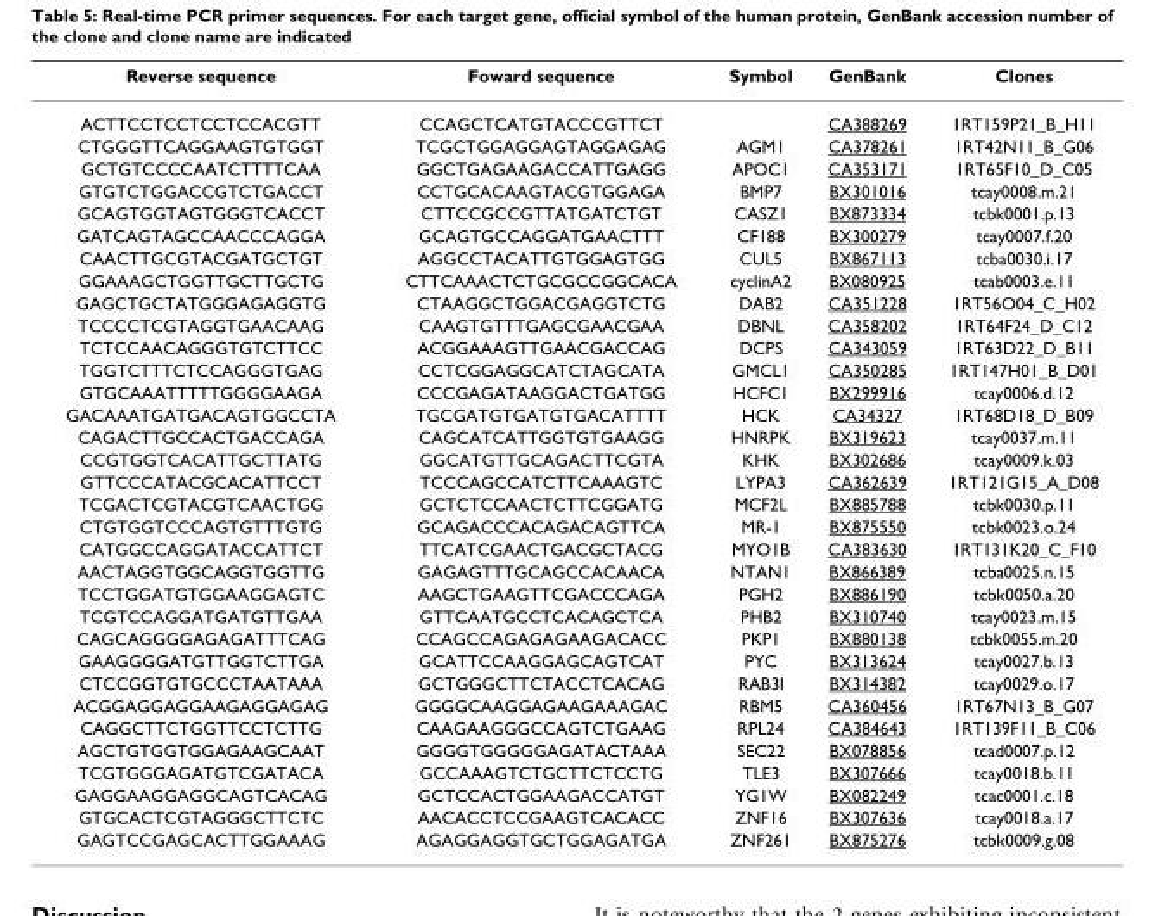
<table><thead><tr><td>Reverse sequence</td><td>Foward sequence</td><td>Symbol</td><td>GenBank</td><td>Clones</td></tr></thead><tbody><tr><td>ACTTCCTCCTCCTCCACGTT</td><td>CCAGCTCATGTACCCGTTCT</td><td></td><td>CA388269</td><td>1RT159P21_B_H11</td></tr><tr><td>CTGGGTTCAGGAAGTGTGGT</td><td>TCGCTGGAGGAGTAGGAGAG</td><td>AGM1</td><td>CA378261</td><td>1RT42N11_B_G06</td></tr><tr><td>GCTGTCCCCAATCTTTTCAA</td><td>GGCTGAGAAGACCATTGAGG</td><td>APOC1</td><td>CA353171</td><td>1RT65F10_D_C05</td></tr><tr><td>GTGTCTGGACCGTCTGACCT</td><td>CCTGCACAAGTACGTGGAGA</td><td>BMP7</td><td>BX301016</td><td>tcay0008.m.21</td></tr><tr><td>GCAGTGGTAGTGGGTCACCT</td><td>CTTCCGCCGTTATGATCTGT</td><td>CASZ1</td><td>BX873334</td><td>tcbk0001.p.13</td></tr><tr><td>GATCAGTAGCCAACCCAGGA</td><td>GCAGTGCCAGGATGAACTTT</td><td>CF188</td><td>BX300279</td><td>tcay0007.f.20</td></tr><tr><td>CAACTTGCGTACGATGCTGT</td><td>AGGCCTACATTGTGGAGTGG</td><td>CUL5</td><td>BX867113</td><td>tcba0030.i.17</td></tr><tr><td>GGAAAGCTGGTTGCTTGCTG</td><td>CTTCAAACTCTGCGCCGGCACA</td><td>cyclinA2</td><td>BX080925</td><td>tcab0003.e.11</td></tr><tr><td>GAGCTGCTATGGGAGAGGTG</td><td>CTAAGGCTGGACGAGGTCTG</td><td>DAB2</td><td>CA351228</td><td>1RT56O04_C_H02</td></tr><tr><td>TCCCCTCGTAGGTGAACAAG</td><td>CAAGTGTTTGAGCGAACGAA</td><td>DBNL</td><td>CA358202</td><td>1RT64F24_D_C12</td></tr><tr><td>TCTCCAACAGGGTGTCTTCC</td><td>ACGGAAAGTTGAACGACCAG</td><td>DCPS</td><td>CA343059</td><td>1RT63D22_D_B11</td></tr><tr><td>TGGTCTTTCTCCAGGGTGAG</td><td>CCTCGGAGGCATCTAGCATA</td><td>GMCL1</td><td>CA350285</td><td>1RT147H01_B_D01</td></tr><tr><td>GTGCAAATTTTTGGGGAAGA</td><td>CCCGAGATAAGGACTGATGG</td><td>HCFC1</td><td>BX299916</td><td>tcay0006.d.12</td></tr><tr><td>GACAAATGATGACAGTGGCCTA</td><td>TGCGATGTGATGTGACATTTT</td><td>HCK</td><td>CA34327</td><td>1RT68D18_D_B09</td></tr><tr><td>CAGACTTGCCACTGACCAGA</td><td>CAGCATCATTGGTGTGAAGG</td><td>HNRPK</td><td>BX319623</td><td>tcay0037.m.11</td></tr><tr><td>CCGTGGTCACATTGCTTATG</td><td>GGCATGTTGCAGACTTCGTA</td><td>KHK</td><td>BX302686</td><td>tcay0009.k.03</td></tr><tr><td>GTTCCCATACGCACATTCCT</td><td>TCCCAGCCATCTTCAAAGTC</td><td>LYPA3</td><td>CA362639</td><td>1RT121G15_A_D08</td></tr><tr><td>TCGACTCGTACGTCAACTGG</td><td>GCTCTCCAACTCTTCGGATG</td><td>MCF2L</td><td>BX885788</td><td>tcbk0030.p.11</td></tr><tr><td>CTGTGGTCCCAGTGTTTGTG</td><td>GCAGACCCACAGACAGTTCA</td><td>MR-1</td><td>BX875550</td><td>tcbk0023.o.24</td></tr><tr><td>CATGGCCAGGATACCATTCT</td><td>TTCATCGAACTGACGCTACG</td><td>MYO1B</td><td>CA383630</td><td>1RT131K20_C_F10</td></tr><tr><td>AACTAGGTGGCAGGTGGTTG</td><td>GAGAGTTTGCAGCCACAACA</td><td>NTAN1</td><td>BX866389</td><td>tcba0025.n.15</td></tr><tr><td>TCCTGGATGTGGAAGGAGTC</td><td>AAGCTGAAGTTCGACCCAGA</td><td>PGH2</td><td>BX886190</td><td>tcbk0050.a.20</td></tr><tr><td>TCGTCCAGGATGATGTTGAA</td><td>GTTCAATGCCTCACAGCTCA</td><td>PHB2</td><td>BX310740</td><td>tcay0023.m.15</td></tr><tr><td>CAGCAGGGGAGAGATTTCAG</td><td>CCAGCCAGAGAGAAGACACC</td><td>PKP1</td><td>BX880138</td><td>tcbk0055.m.20</td></tr><tr><td>GAAGGGGATGTTGGTCTTGA</td><td>GCATTCCAAGGAGCAGTCAT</td><td>PYC</td><td>BX313624</td><td>tcay0027.b.13</td></tr><tr><td>CTCCGGTGTGCCCTAATAAA</td><td>GCTGGGCTTCTACCTCACAG</td><td>RAB3I</td><td>BX314382</td><td>tcay0029.o.17</td></tr><tr><td>ACGGAGGAGGAAGAGGAGAG</td><td>GGGGCAAGGAGAAGAAAGAC</td><td>RBM5</td><td>CA360456</td><td>1RT67N13_B_G07</td></tr><tr><td>CAGGCTTCTGGTTCCTCTTG</td><td>CAAGAAGGGCCAGTCTGAAG</td><td>RPL24</td><td>CA384643</td><td>1RT139F11_B_C06</td></tr><tr><td>AGCTGTGGTGGAGAAGCAAT</td><td>GGGGTGGGGGAGATACTAAA</td><td>SEC22</td><td>BX078856</td><td>tcad0007.p.12</td></tr><tr><td>TCGTGGGAGATGTCGATACA</td><td>GCCAAAGTCTGCTTCTCCTG</td><td>TLE3</td><td>BX307666</td><td>tcay0018.b.11</td></tr><tr><td>GAGGAAGGAGGCAGTCACAG</td><td>GCTCCACTGGAAGACCATGT</td><td>YG1W</td><td>BX082249</td><td>tcac0001.c.18</td></tr><tr><td>GTGCACTCGTAGGGCTTCTC</td><td>AACACCTCCGAAGTCACACC</td><td>ZNF16</td><td>BX307636</td><td>tcay0018.a.17</td></tr><tr><td>GAGTCCGAGCACTTGGAAAG</td><td>AGAGGAGGTGCTGGAGATGA</td><td>ZNF261</td><td>BX875276</td><td>tcbk0009.g.08</td></tr></tbody></table>